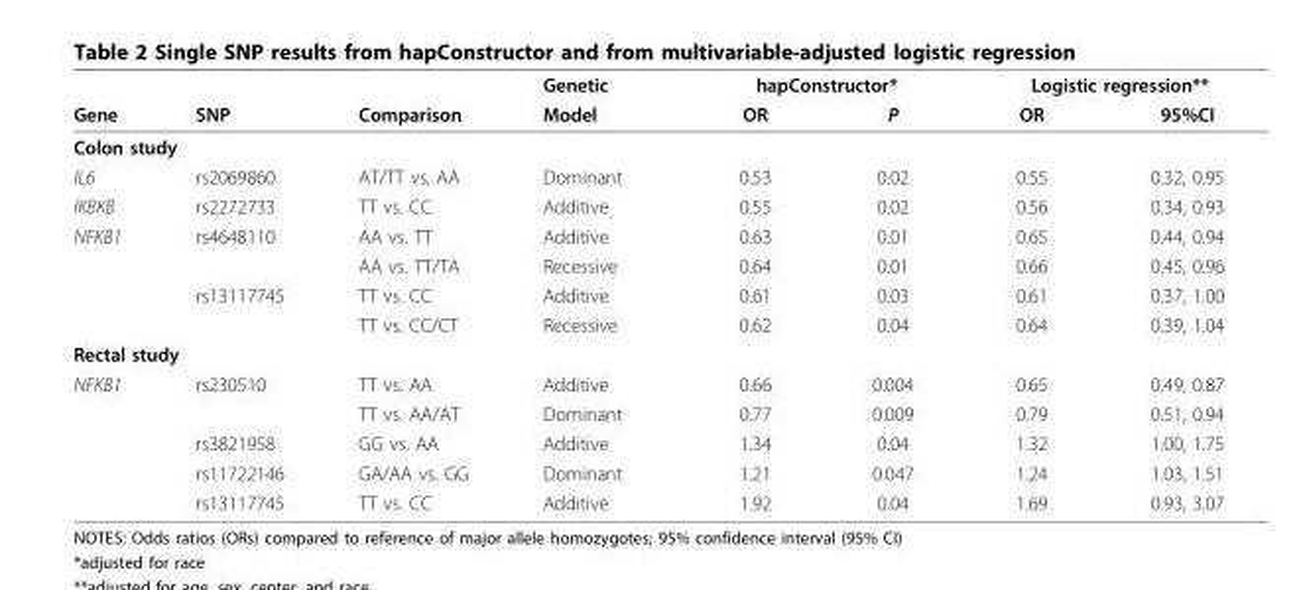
<table><thead><tr><td rowspan="2">Gene</td><td rowspan="2">SNP</td><td rowspan="2">Comparison</td><td rowspan="2">Genetic Model</td><td colspan="2">hapConstructor*</td><td colspan="2">Logistic regression**</td></tr><tr><td>OR</td><td>P</td><td>OR</td><td>95%CI</td></tr></thead><tbody><tr><td colspan="8">Colon study</td></tr><tr><td>IL6</td><td>rs2069860</td><td>AT/TT vs. AA</td><td>Dominant</td><td>0.53</td><td>0.02</td><td>0.55</td><td>0.32, 0.95</td></tr><tr><td>IKBKB</td><td>rs2272733</td><td>TT vs. CC</td><td>Additive</td><td>0.55</td><td>0.02</td><td>0.56</td><td>0.34, 0.93</td></tr><tr><td rowspan="4">NFKB1</td><td>rs4648110</td><td>AA vs. TT</td><td>Additive</td><td>0.63</td><td>0.01</td><td>0.65</td><td>0.44, 0.94</td></tr><tr><td></td><td>AA vs. TT/TA</td><td>Recessive</td><td>0.64</td><td>0.01</td><td>0.66</td><td>0.45, 0.96</td></tr><tr><td>rs13117745</td><td>TT vs. CC</td><td>Additive</td><td>0.61</td><td>0.03</td><td>0.61</td><td>0.37, 1.00</td></tr><tr><td></td><td>TT vs. CC/CT</td><td>Recessive</td><td>0.62</td><td>0.04</td><td>0.64</td><td>0.39, 1.04</td></tr><tr><td colspan="8">Rectal study</td></tr><tr><td rowspan="5">NFKB1</td><td>rs230510</td><td>TT vs. AA</td><td>Additive</td><td>0.66</td><td>0.004</td><td>0.65</td><td>0.49, 0.87</td></tr><tr><td></td><td>TT vs. AA/AT</td><td>Dominant</td><td>0.77</td><td>0.009</td><td>0.79</td><td>0.51, 0.94</td></tr><tr><td>rs3821958</td><td>GG vs. AA</td><td>Additive</td><td>1.34</td><td>0.04</td><td>1.32</td><td>1.00, 1.75</td></tr><tr><td>rs11722146</td><td>GA/AA vs. GG</td><td>Dominant</td><td>1.21</td><td>0.047</td><td>1.24</td><td>1.03, 1.51</td></tr><tr><td>rs13117745</td><td>TT vs. CC</td><td>Additive</td><td>1.92</td><td>0.04</td><td>1.69</td><td>0.93, 3.07</td></tr></tbody></table>